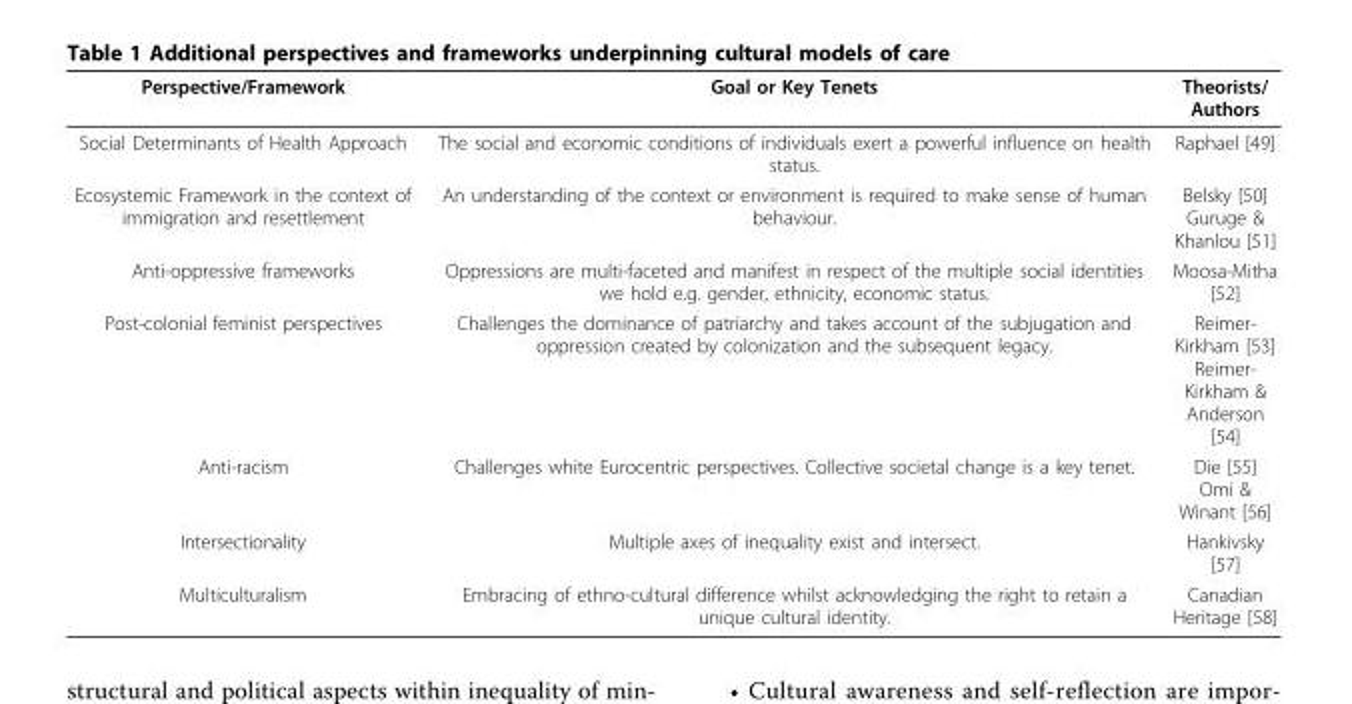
<table><thead><tr><td>Perspective/Framework</td><td>Goal or Key Tenets</td><td>Theorists/ Authors</td></tr></thead><tbody><tr><td>Social Determinants of Health Approach</td><td>The social and economic conditions of individuals exert a powerful influence on health status.</td><td>Raphael [49]</td></tr><tr><td>Ecosystemic Framework in the context of immigration and resettlement</td><td>An understanding of the context or environment is required to make sense of human behaviour.</td><td>Belsky [50] Guruge &amp; Khanlou [51]</td></tr><tr><td>Anti-oppressive frameworks</td><td>Oppressions are multi-faceted and manifest in respect of the multiple social identities we hold e.g. gender, ethnicity, economic status.</td><td>Moosa-Mitha [52]</td></tr><tr><td>Post-colonial feminist perspectives</td><td>Challenges the dominance of patriarchy and takes account of the subjugation and oppression created by colonization and the subsequent legacy.</td><td>Reimer- Kirkham [53] Reimer- Kirkham &amp; Anderson [54]</td></tr><tr><td>Anti-racism</td><td>Challenges white Eurocentric perspectives. Collective societal change is a key tenet.</td><td>Die [55] Omi &amp; Winant [56]</td></tr><tr><td>Intersectionality</td><td>Multiple axes of inequality exist and intersect.</td><td>Hankivsky [57]</td></tr><tr><td>Multiculturalism</td><td>Embracing of ethno-cultural difference whilst acknowledging the right to retain a unique cultural identity.</td><td>Canadian Heritage [58]</td></tr></tbody></table>